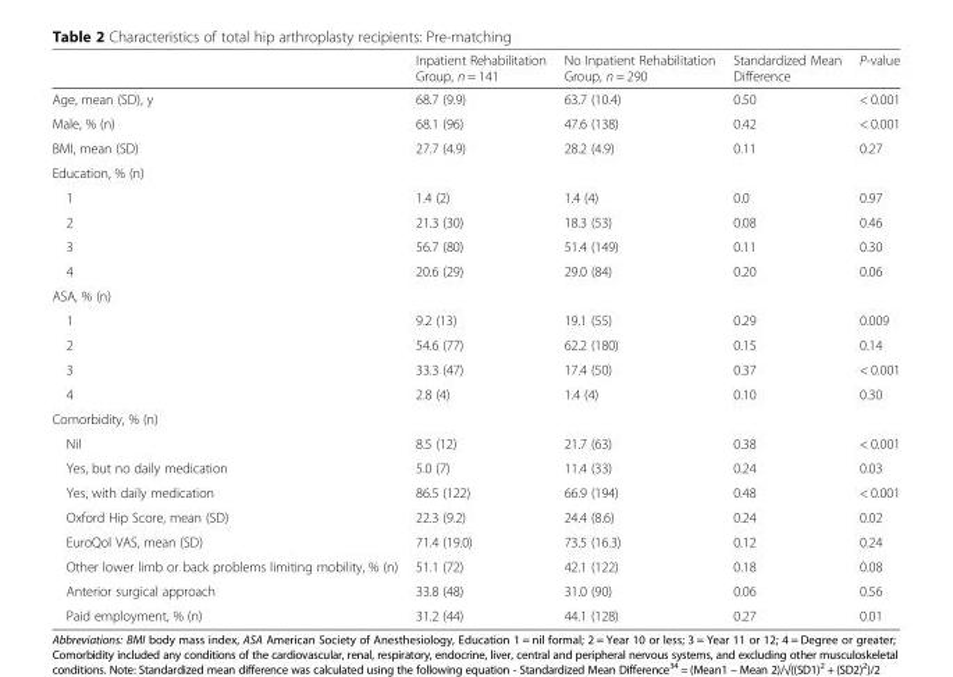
<table><thead><tr><td></td><td>Inpatient Rehabilitation Group, n = 141</td><td>No Inpatient Rehabilitation Group, n = 290</td><td>Standardized Mean Difference</td><td>P-value</td></tr></thead><tbody><tr><td>Age, mean (SD), y</td><td>68.7 (9.9)</td><td>63.7 (10.4)</td><td>0.50</td><td>&lt; 0.001</td></tr><tr><td>Male, % (n)</td><td>68.1 (96)</td><td>47.6 (138)</td><td>0.42</td><td>&lt; 0.001</td></tr><tr><td>BMI, mean (SD)</td><td>27.7 (4.9)</td><td>28.2 (4.9)</td><td>0.11</td><td>0.27</td></tr><tr><td colspan="5">Education, % (n)</td></tr><tr><td>1</td><td>1.4 (2)</td><td>1.4 (4)</td><td>0.0</td><td>0.97</td></tr><tr><td>2</td><td>21.3 (30)</td><td>18.3 (53)</td><td>0.08</td><td>0.46</td></tr><tr><td>3</td><td>56.7 (80)</td><td>51.4 (149)</td><td>0.11</td><td>0.30</td></tr><tr><td>4</td><td>20.6 (29)</td><td>29.0 (84)</td><td>0.20</td><td>0.06</td></tr><tr><td colspan="5">ASA, % (n)</td></tr><tr><td>1</td><td>9.2 (13)</td><td>19.1 (55)</td><td>0.29</td><td>0.009</td></tr><tr><td>2</td><td>54.6 (77)</td><td>62.2 (180)</td><td>0.15</td><td>0.14</td></tr><tr><td>3</td><td>33.3 (47)</td><td>17.4 (50)</td><td>0.37</td><td>&lt; 0.001</td></tr><tr><td>4</td><td>2.8 (4)</td><td>1.4 (4)</td><td>0.10</td><td>0.30</td></tr><tr><td colspan="5">Comorbidity, % (n)</td></tr><tr><td>Nil</td><td>8.5 (12)</td><td>21.7 (63)</td><td>0.38</td><td>&lt; 0.001</td></tr><tr><td>Yes, but no daily medication</td><td>5.0 (7)</td><td>11.4 (33)</td><td>0.24</td><td>0.03</td></tr><tr><td>Yes, with daily medication</td><td>86.5 (122)</td><td>66.9 (194)</td><td>0.48</td><td>&lt; 0.001</td></tr><tr><td>Oxford Hip Score, mean (SD)</td><td>22.3 (9.2)</td><td>24.4 (8.6)</td><td>0.24</td><td>0.02</td></tr><tr><td>EuroQol VAS, mean (SD)</td><td>71.4 (19.0)</td><td>73.5 (16.3)</td><td>0.12</td><td>0.24</td></tr><tr><td>Other lower limb or back problems limiting mobility, % (n)</td><td>51.1 (72)</td><td>42.1 (122)</td><td>0.18</td><td>0.08</td></tr><tr><td>Anterior surgical approach</td><td>33.8 (48)</td><td>31.0 (90)</td><td>0.06</td><td>0.56</td></tr><tr><td>Paid employment, % (n)</td><td>31.2 (44)</td><td>44.1 (128)</td><td>0.27</td><td>0.01</td></tr></tbody></table>